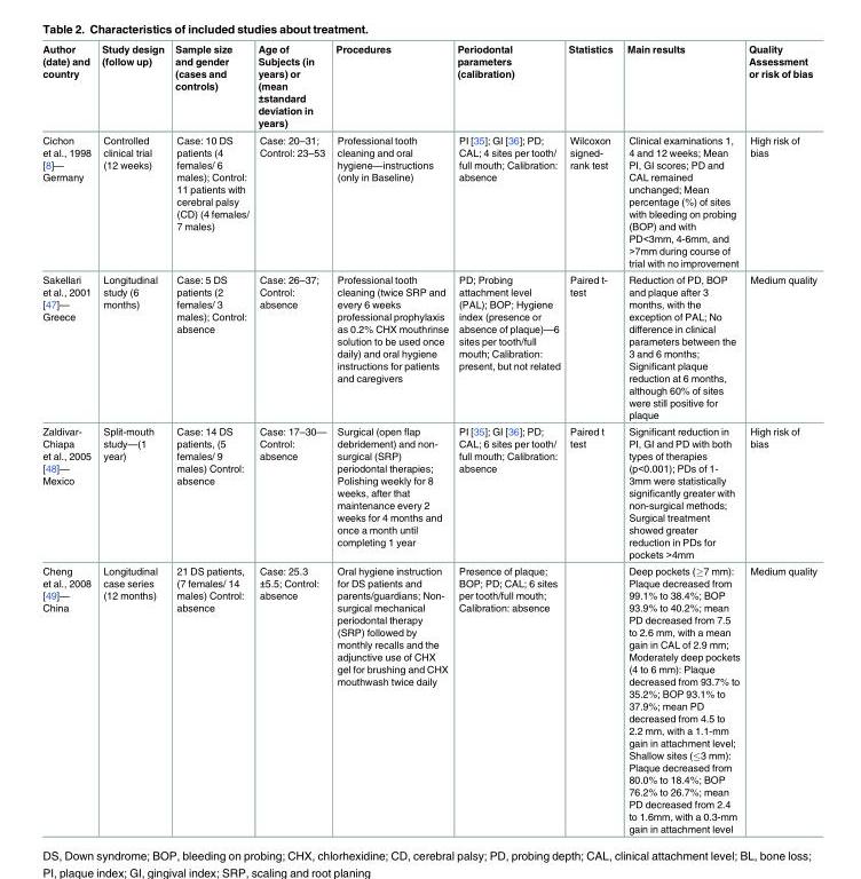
<table><thead><tr><td>Author (date) and country</td><td>Study design (follow up)</td><td>Sample size and gender (cases and controls)</td><td>Age of Subjects (in years) or (mean ±standard deviation in years)</td><td>Procedures</td><td>Periodontal parameters (calibration)</td><td>Statistics</td><td>Main results</td><td>Quality Assessment or risk of bias</td></tr></thead><tbody><tr><td>Cichon et al., 1998 [8]— Germany</td><td>Controlled clinical trial (12 weeks)</td><td>Case: 10 DS patients (4 females/ 6 males); Control: 11 patients with cerebral palsy (CD) (4 females/ 7 males)</td><td>Case: 20–31; Control: 23–53</td><td>Professional tooth cleaning and oral hygiene—instructions (only in Baseline)</td><td>PI [35]; GI [36]; PD; CAL; 4 sites per tooth/ full mouth; Calibration: absence</td><td>Wilcoxon signed- rank test</td><td>Clinical examinations 1, 4 and 12 weeks; Mean PI, GI scores; PD and CAL remained unchanged; Mean percentage (%) of sites with bleeding on probing (BOP) and with PD&lt;3mm, 4-6mm, and &gt;7mm during course of trial with no improvement</td><td>High risk of bias</td></tr><tr><td>Sakellari et al., 2001 [47]— Greece</td><td>Longitudinal study (6 months)</td><td>Case: 5 DS patients (2 females/ 3 males); Control: absence</td><td>Case: 26–37; Control: absence</td><td>Professional tooth cleaning (twice SRP and every 6 weeks professional prophylaxis as 0.2% CHX mouthrinse solution to be used once daily) and oral hygiene instructions for patients and caregivers</td><td>PD; Probing attachment level (PAL); BOP; Hygiene index (presence or absence of plaque)—6 sites per tooth/full mouth; Calibration: present, but not related</td><td>Paired t- test</td><td>Reduction of PD, BOP and plaque after 3 months, with the exception of PAL; No difference in clinical parameters between the 3 and 6 months; Significant plaque reduction at 6 months, although 60% of sites were still positive for plaque</td><td>Medium quality</td></tr><tr><td>Zaldivar- Chiapa et al., 2005 [48]— Mexico</td><td>Split-mouth study—(1 year)</td><td>Case: 14 DS patients, (5 females/ 9 males) Control: absence</td><td>Case: 17–30— Control: absence</td><td>Surgical (open flap debridement) and non- surgical (SRP) periodontal therapies; Polishing weekly for 8 weeks, after that maintenance every 2 weeks for 4 months and once a month until completing 1 year</td><td>PI [35]; GI [36]; PD; CAL; 6 sites per tooth/ full mouth; Calibration: absence</td><td>Paired t test</td><td>Significant reduction in PI, GI and PD with both types of therapies (p&lt;0.001); PDs of 1- 3mm were statistically significantly greater with non-surgical methods; Surgical treatment showed greater reduction in PDs for pockets &gt;4mm</td><td>High risk of bias</td></tr><tr><td>Cheng et al., 2008 [49]— China</td><td>Longitudinal case series (12 months)</td><td>21 DS patients, (7 females/ 14 males) Control: absence</td><td>Case: 25.3 ±5.5; Control: absence</td><td>Oral hygiene instruction for DS patients and parents/guardians; Non- surgical mechanical periodontal therapy (SRP) followed by monthly recalls and the adjunctive use of CHX gel for brushing and CHX mouthwash twice daily</td><td>Presence of plaque; BOP; PD; CAL; 6 sites per tooth/full mouth; Calibration: absence</td><td></td><td>Deep pockets (≥7 mm): Plaque decreased from 99.1% to 38.4%; BOP 93.9% to 40.2%; mean PD decreased from 7.5 to 2.6 mm, with a mean gain in CAL of 2.9 mm; Moderately deep pockets (4 to 6 mm): Plaque decreased from 93.7% to 35.2%; BOP 93.1% to 37.9%; mean PD decreased from 4.5 to 2.2 mm, with a 1.1-mm gain in attachment level; Shallow sites (≤3 mm): Plaque decreased from 80.0% to 18.4%; BOP 76.2% to 26.7%; mean PD decreased from 2.4 to 1.6mm, with a 0.3-mm gain in attachment level</td><td>Medium quality</td></tr></tbody></table>